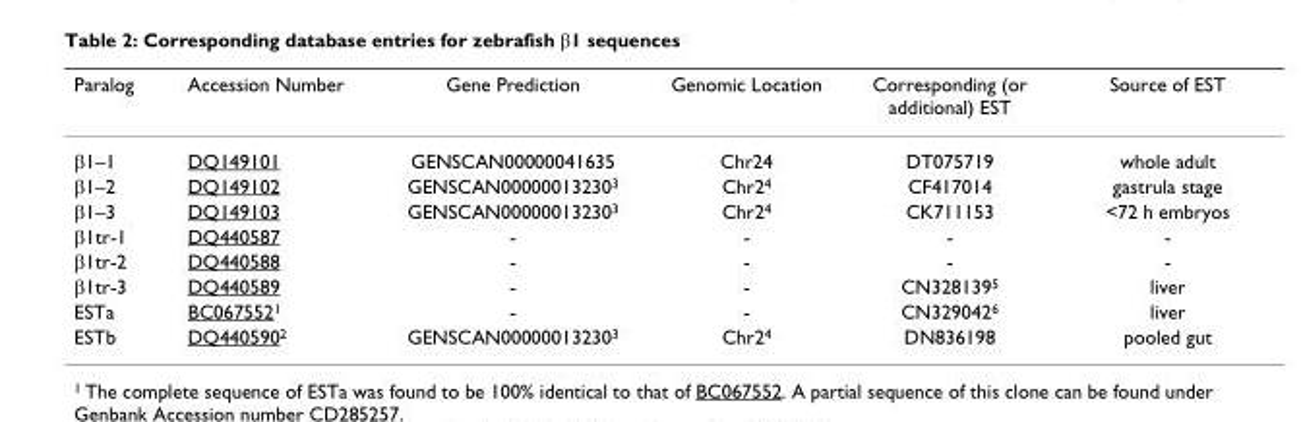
<table><thead><tr><td>Paralog</td><td>Accession Number</td><td>Gene Prediction</td><td>Genomic Location</td><td>Corresponding (or additional) EST</td><td>Source of EST</td></tr></thead><tbody><tr><td>β1–1</td><td>DQ149101</td><td>GENSCAN00000041635</td><td>Chr24</td><td>DT075719</td><td>whole adult</td></tr><tr><td>β1–2</td><td>DQ149102</td><td>GENSCAN00000013230<sup>3</sup></td><td>Chr2<sup>4</sup></td><td>CF417014</td><td>gastrula stage</td></tr><tr><td>β1–3</td><td>DQ149103</td><td>GENSCAN00000013230<sup>3</sup></td><td>Chr2<sup>4</sup></td><td>CK711153</td><td>&lt;72 h embryos</td></tr><tr><td>β1tr-1</td><td>DQ440587</td><td>-</td><td>-</td><td>-</td><td>-</td></tr><tr><td>β1tr-2</td><td>DQ440588</td><td>-</td><td>-</td><td>-</td><td>-</td></tr><tr><td>β1tr-3</td><td>DQ440589</td><td>-</td><td>-</td><td>CN328139<sup>5</sup></td><td>liver</td></tr><tr><td>ESTa</td><td>BC067552<sup>1</sup></td><td>-</td><td>-</td><td>CN329042<sup>6</sup></td><td>liver</td></tr><tr><td>ESTb</td><td>DQ440590<sup>2</sup></td><td>GENSCAN00000013230<sup>3</sup></td><td>Chr2<sup>4</sup></td><td>DN836198</td><td>pooled gut</td></tr></tbody></table>